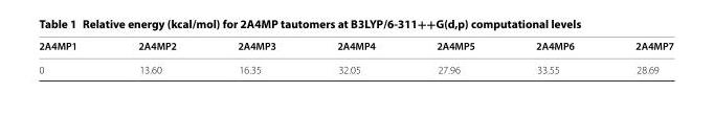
<table><thead><tr><td>2A4MP1</td><td>2A4MP2</td><td>2A4MP3</td><td>2A4MP4</td><td>2A4MP5</td><td>2A4MP6</td><td>2A4MP7</td></tr></thead><tbody><tr><td>0</td><td>13.60</td><td>16.35</td><td>32.05</td><td>27.96</td><td>33.55</td><td>28.69</td></tr></tbody></table>